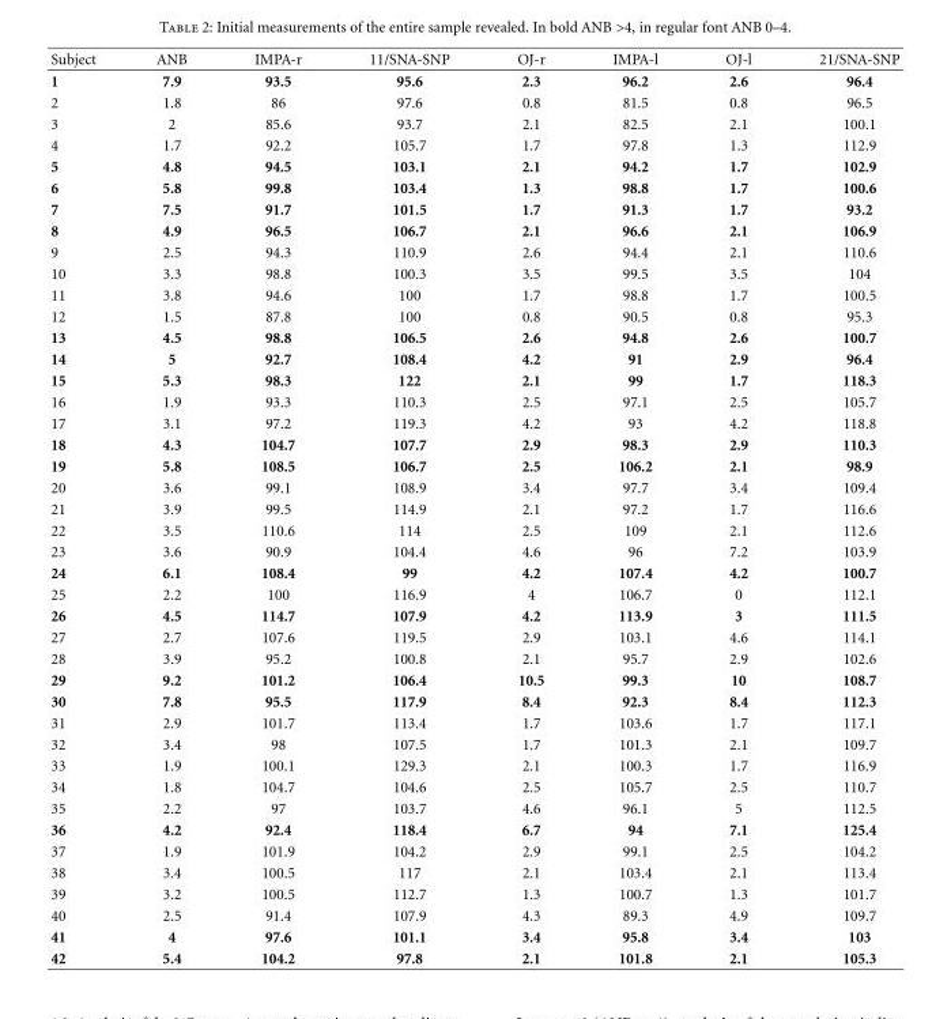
<table><thead><tr><td>Subject</td><td>ANB</td><td>IMPA-r</td><td>11/SNA-SNP</td><td>OJ-r</td><td>IMPA-l</td><td>OJ-l</td><td>21/SNA-SNP</td></tr></thead><tbody><tr><td>1</td><td>7.9</td><td>93.5</td><td>95.6</td><td>2.3</td><td>96.2</td><td>2.6</td><td>96.4</td></tr><tr><td>2</td><td>1.8</td><td>86</td><td>97.6</td><td>0.8</td><td>81.5</td><td>0.8</td><td>96.5</td></tr><tr><td>3</td><td>2</td><td>85.6</td><td>93.7</td><td>2.1</td><td>82.5</td><td>2.1</td><td>100.1</td></tr><tr><td>4</td><td>1.7</td><td>92.2</td><td>105.7</td><td>1.7</td><td>97.8</td><td>1.3</td><td>112.9</td></tr><tr><td>5</td><td>4.8</td><td>94.5</td><td>103.1</td><td>2.1</td><td>94.2</td><td>1.7</td><td>102.9</td></tr><tr><td>6</td><td>5.8</td><td>99.8</td><td>103.4</td><td>1.3</td><td>98.8</td><td>1.7</td><td>100.6</td></tr><tr><td>7</td><td>7.5</td><td>91.7</td><td>101.5</td><td>1.7</td><td>91.3</td><td>1.7</td><td>93.2</td></tr><tr><td>8</td><td>4.9</td><td>96.5</td><td>106.7</td><td>2.1</td><td>96.6</td><td>2.1</td><td>106.9</td></tr><tr><td>9</td><td>2.5</td><td>94.3</td><td>110.9</td><td>2.6</td><td>94.4</td><td>2.1</td><td>110.6</td></tr><tr><td>10</td><td>3.3</td><td>98.8</td><td>100.3</td><td>3.5</td><td>99.5</td><td>3.5</td><td>104</td></tr><tr><td>11</td><td>3.8</td><td>94.6</td><td>100</td><td>1.7</td><td>98.8</td><td>1.7</td><td>100.5</td></tr><tr><td>12</td><td>1.5</td><td>87.8</td><td>100</td><td>0.8</td><td>90.5</td><td>0.8</td><td>95.3</td></tr><tr><td>13</td><td>4.5</td><td>98.8</td><td>106.5</td><td>2.6</td><td>94.8</td><td>2.6</td><td>100.7</td></tr><tr><td>14</td><td>5</td><td>92.7</td><td>108.4</td><td>4.2</td><td>91</td><td>2.9</td><td>96.4</td></tr><tr><td>15</td><td>5.3</td><td>98.3</td><td>122</td><td>2.1</td><td>99</td><td>1.7</td><td>118.3</td></tr><tr><td>16</td><td>1.9</td><td>93.3</td><td>110.3</td><td>2.5</td><td>97.1</td><td>2.5</td><td>105.7</td></tr><tr><td>17</td><td>3.1</td><td>97.2</td><td>119.3</td><td>4.2</td><td>93</td><td>4.2</td><td>118.8</td></tr><tr><td>18</td><td>4.3</td><td>104.7</td><td>107.7</td><td>2.9</td><td>98.3</td><td>2.9</td><td>110.3</td></tr><tr><td>19</td><td>5.8</td><td>108.5</td><td>106.7</td><td>2.5</td><td>106.2</td><td>2.1</td><td>98.9</td></tr><tr><td>20</td><td>3.6</td><td>99.1</td><td>108.9</td><td>3.4</td><td>97.7</td><td>3.4</td><td>109.4</td></tr><tr><td>21</td><td>3.9</td><td>99.5</td><td>114.9</td><td>2.1</td><td>97.2</td><td>1.7</td><td>116.6</td></tr><tr><td>22</td><td>3.5</td><td>110.6</td><td>114</td><td>2.5</td><td>109</td><td>2.1</td><td>112.6</td></tr><tr><td>23</td><td>3.6</td><td>90.9</td><td>104.4</td><td>4.6</td><td>96</td><td>7.2</td><td>103.9</td></tr><tr><td>24</td><td>6.1</td><td>108.4</td><td>99</td><td>4.2</td><td>107.4</td><td>4.2</td><td>100.7</td></tr><tr><td>25</td><td>2.2</td><td>100</td><td>116.9</td><td>4</td><td>106.7</td><td>0</td><td>112.1</td></tr><tr><td>26</td><td>4.5</td><td>114.7</td><td>107.9</td><td>4.2</td><td>113.9</td><td>3</td><td>111.5</td></tr><tr><td>27</td><td>2.7</td><td>107.6</td><td>119.5</td><td>2.9</td><td>103.1</td><td>4.6</td><td>114.1</td></tr><tr><td>28</td><td>3.9</td><td>95.2</td><td>100.8</td><td>2.1</td><td>95.7</td><td>2.9</td><td>102.6</td></tr><tr><td>29</td><td>9.2</td><td>101.2</td><td>106.4</td><td>10.5</td><td>99.3</td><td>10</td><td>108.7</td></tr><tr><td>30</td><td>7.8</td><td>95.5</td><td>117.9</td><td>8.4</td><td>92.3</td><td>8.4</td><td>112.3</td></tr><tr><td>31</td><td>2.9</td><td>101.7</td><td>113.4</td><td>1.7</td><td>103.6</td><td>1.7</td><td>117.1</td></tr><tr><td>32</td><td>3.4</td><td>98</td><td>107.5</td><td>1.7</td><td>101.3</td><td>2.1</td><td>109.7</td></tr><tr><td>33</td><td>1.9</td><td>100.1</td><td>129.3</td><td>2.1</td><td>100.3</td><td>1.7</td><td>116.9</td></tr><tr><td>34</td><td>1.8</td><td>104.7</td><td>104.6</td><td>2.5</td><td>105.7</td><td>2.5</td><td>110.7</td></tr><tr><td>35</td><td>2.2</td><td>97</td><td>103.7</td><td>4.6</td><td>96.1</td><td>5</td><td>112.5</td></tr><tr><td>36</td><td>4.2</td><td>92.4</td><td>118.4</td><td>6.7</td><td>94</td><td>7.1</td><td>125.4</td></tr><tr><td>37</td><td>1.9</td><td>101.9</td><td>104.2</td><td>2.9</td><td>99.1</td><td>2.5</td><td>104.2</td></tr><tr><td>38</td><td>3.4</td><td>100.5</td><td>117</td><td>2.1</td><td>103.4</td><td>2.1</td><td>113.4</td></tr><tr><td>39</td><td>3.2</td><td>100.5</td><td>112.7</td><td>1.3</td><td>100.7</td><td>1.3</td><td>101.7</td></tr><tr><td>40</td><td>2.5</td><td>91.4</td><td>107.9</td><td>4.3</td><td>89.3</td><td>4.9</td><td>109.7</td></tr><tr><td>41</td><td>4</td><td>97.6</td><td>101.1</td><td>3.4</td><td>95.8</td><td>3.4</td><td>103</td></tr><tr><td>42</td><td>5.4</td><td>104.2</td><td>97.8</td><td>2.1</td><td>101.8</td><td>2.1</td><td>105.3</td></tr></tbody></table>